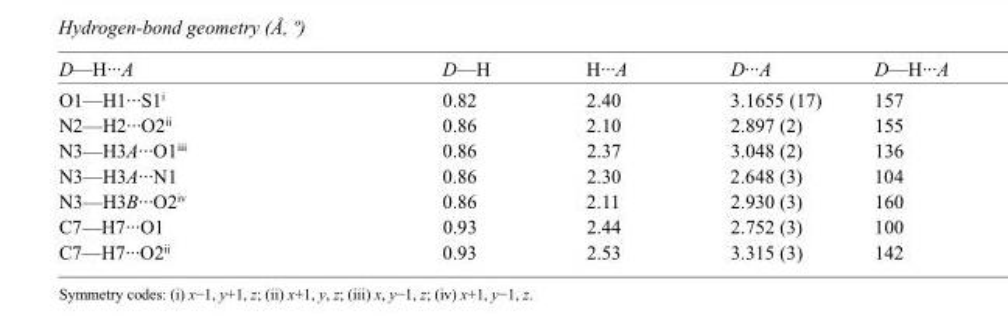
<table><tbody><tr><td>D—H···A</td><td>D—H</td><td>H···A</td><td>D···A</td><td>D—H···A</td></tr><tr><td>O1—H1···S1<sup>i</sup></td><td>0.82</td><td>2.40</td><td>3.1655 (17)</td><td>157</td></tr><tr><td>N2—H2···O2<sup>ii</sup></td><td>0.86</td><td>2.10</td><td>2.897 (2)</td><td>155</td></tr><tr><td>N3—H3A···O1<sup>iii</sup></td><td>0.86</td><td>2.37</td><td>3.048 (2)</td><td>136</td></tr><tr><td>N3—H3A···N1</td><td>0.86</td><td>2.30</td><td>2.648 (3)</td><td>104</td></tr><tr><td>N3—H3B···O2<sup>iv</sup></td><td>0.86</td><td>2.11</td><td>2.930 (3)</td><td>160</td></tr><tr><td>C7—H7···O1</td><td>0.93</td><td>2.44</td><td>2.752 (3)</td><td>100</td></tr><tr><td>C7—H7···O2<sup>ii</sup></td><td>0.93</td><td>2.53</td><td>3.315 (3)</td><td>142</td></tr></tbody></table>